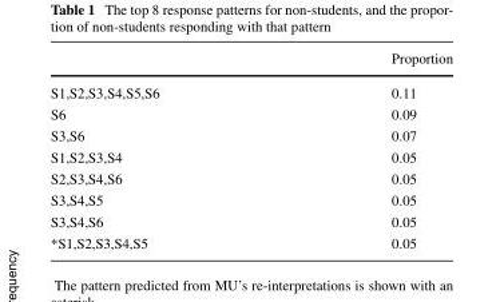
<table><thead><tr><td></td><td>Proportion</td></tr></thead><tbody><tr><td>S1,S2,S3,S4,S5,S6</td><td>0.11</td></tr><tr><td>S6</td><td>0.09</td></tr><tr><td>S3,S6</td><td>0.07</td></tr><tr><td>S1,S2,S3,S4</td><td>0.05</td></tr><tr><td>S2,S3,S4,S6</td><td>0.05</td></tr><tr><td>S3,S4,S5</td><td>0.05</td></tr><tr><td>S3,S4,S6</td><td>0.05</td></tr><tr><td>*S1,S2,S3,S4,S5</td><td>0.05</td></tr></tbody></table>